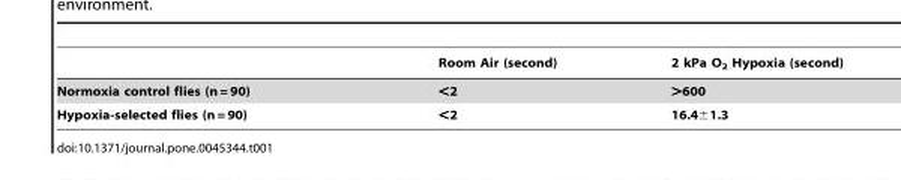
<table><thead><tr><td></td><td>Room Air (second)</td><td>2 kPa O<sub>2</sub> Hypoxia (second)</td></tr></thead><tbody><tr><td>Normoxia control flies (n = 90)</td><td>&lt;2</td><td>&gt;600</td></tr><tr><td>Hypoxia-selected flies (n = 90)</td><td>&lt;2</td><td>16.4±1.3</td></tr></tbody></table>